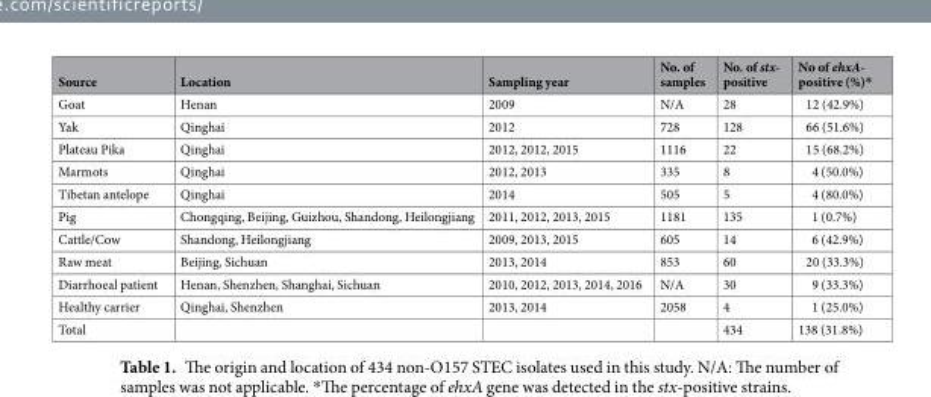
<table><thead><tr><td>Source</td><td>Location</td><td>Sampling year</td><td>No. of samples</td><td>No. of stx- positive</td><td>No of ehxA- positive (%)*</td></tr></thead><tbody><tr><td>Goat</td><td>Henan</td><td>2009</td><td>N/A</td><td>28</td><td>12 (42.9%)</td></tr><tr><td>Yak</td><td>Qinghai</td><td>2012</td><td>728</td><td>128</td><td>66 (51.6%)</td></tr><tr><td>Plateau Pika</td><td>Qinghai</td><td>2012, 2012, 2015</td><td>1116</td><td>22</td><td>15 (68.2%)</td></tr><tr><td>Marmots</td><td>Qinghai</td><td>2012, 2013</td><td>335</td><td>8</td><td>4 (50.0%)</td></tr><tr><td>Tibetan antelope</td><td>Qinghai</td><td>2014</td><td>505</td><td>5</td><td>4 (80.0%)</td></tr><tr><td>Pig</td><td>Chongqing, Beijing, Guizhou, Shandong, Heilongjiang</td><td>2011, 2012, 2013, 2015</td><td>1181</td><td>135</td><td>1 (0.7%)</td></tr><tr><td>Cattle/Cow</td><td>Shandong, Heilongjiang</td><td>2009, 2013, 2015</td><td>605</td><td>14</td><td>6 (42.9%)</td></tr><tr><td>Raw meat</td><td>Beijing, Sichuan</td><td>2013, 2014</td><td>853</td><td>60</td><td>20 (33.3%)</td></tr><tr><td>Diarrhoeal patient</td><td>Henan, Shenzhen, Shanghai, Sichuan</td><td>2010, 2012, 2013, 2014, 2016</td><td>N/A</td><td>30</td><td>9 (33.3%)</td></tr><tr><td>Healthy carrier</td><td>Qinghai, Shenzhen</td><td>2013, 2014</td><td>2058</td><td>4</td><td>1 (25.0%)</td></tr><tr><td>Total</td><td></td><td></td><td></td><td>434</td><td>138 (31.8%)</td></tr></tbody></table>